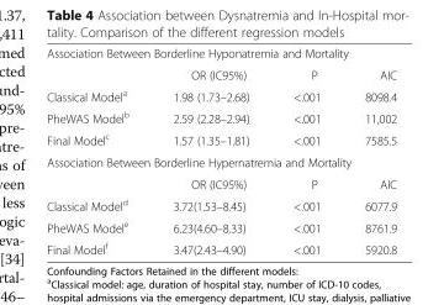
<table><tbody><tr><td colspan="4">Association Between Borderline Hyponatremia and Mortality</td></tr><tr><td></td><td>OR (IC95%)</td><td>P</td><td>AIC</td></tr><tr><td>Classical Model<sup>a</sup></td><td>1.98 (1.73–2.68)</td><td>&lt;.001</td><td>8098.4</td></tr><tr><td>PheWAS Model<sup>b</sup></td><td>2.59 (2.28–2.94)</td><td>&lt;.001</td><td>11,002</td></tr><tr><td>Final Model<sup>c</sup></td><td>1.57 (1.35–1.81)</td><td>&lt;.001</td><td>7585.5</td></tr><tr><td colspan="4">Association Between Borderline Hypernatremia and Mortality</td></tr><tr><td></td><td>OR (IC95%)</td><td>P</td><td>AIC</td></tr><tr><td>Classical Model<sup>d</sup></td><td>3.72(1.53–8.45)</td><td>&lt;.001</td><td>6077.9</td></tr><tr><td>PheWAS Model<sup>e</sup></td><td>6.23(4.60–8.33)</td><td>&lt;.001</td><td>8761.9</td></tr><tr><td>Final Model<sup>f</sup></td><td>3.47(2.43–4.90)</td><td>&lt;.001</td><td>5920.8</td></tr></tbody></table>